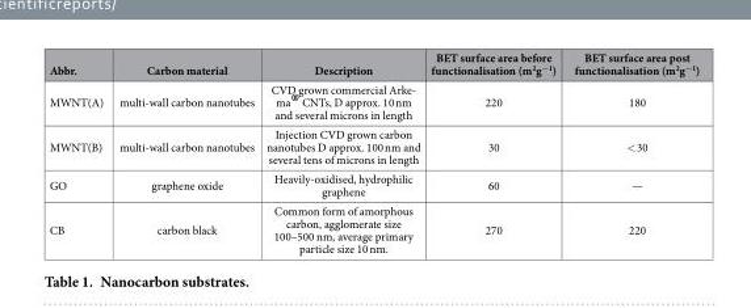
<table><thead><tr><td>Abbr.</td><td>Carbon material</td><td>Description</td><td>BET surface area before functionalisation (m<sup>2</sup>g<sup>−1</sup>)</td><td>BET surface area post functionalisation (m<sup>2</sup>g<sup>−1</sup>)</td></tr></thead><tbody><tr><td>MWNT(A)</td><td>multi-wall carbon nanotubes</td><td>CVD grown commercial Arke- ma® CNTs, D approx. 10 nm and several microns in length</td><td>220</td><td>180</td></tr><tr><td>MWNT(B)</td><td>multi-wall carbon nanotubes</td><td>Injection CVD grown carbon nanotubes D approx. 100 nm and several tens of microns in length</td><td>30</td><td>&lt; 30</td></tr><tr><td>GO</td><td>graphene oxide</td><td>Heavily-oxidised, hydrophilic graphene</td><td>60</td><td>—</td></tr><tr><td>CB</td><td>carbon black</td><td>Common form of amorphous carbon, agglomerate size 100–500 nm, average primary particle size 10 nm.</td><td>270</td><td>220</td></tr></tbody></table>